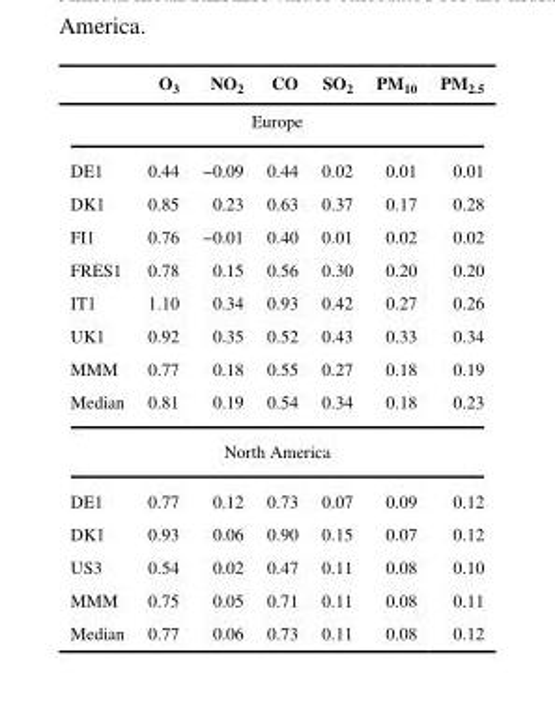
<table><thead><tr><td></td><td>O<sub>3</sub></td><td>NO<sub>2</sub></td><td>CO</td><td>SO<sub>2</sub></td><td>PM<sub>10</sub></td><td>PM<sub>2.5</sub></td></tr></thead><tbody><tr><td colspan="7">Europe</td></tr><tr><td>DE1</td><td>0.44</td><td>−0.09</td><td>0.44</td><td>0.02</td><td>0.01</td><td>0.01</td></tr><tr><td>DK1</td><td>0.85</td><td>0.23</td><td>0.63</td><td>0.37</td><td>0.17</td><td>0.28</td></tr><tr><td>FI1</td><td>0.76</td><td>−0.01</td><td>0.40</td><td>0.01</td><td>0.02</td><td>0.02</td></tr><tr><td>FRES1</td><td>0.78</td><td>0.15</td><td>0.56</td><td>0.30</td><td>0.20</td><td>0.20</td></tr><tr><td>IT1</td><td>1.10</td><td>0.34</td><td>0.93</td><td>0.42</td><td>0.27</td><td>0.26</td></tr><tr><td>UK1</td><td>0.92</td><td>0.35</td><td>0.52</td><td>0.43</td><td>0.33</td><td>0.34</td></tr><tr><td>MMM</td><td>0.77</td><td>0.18</td><td>0.55</td><td>0.27</td><td>0.18</td><td>0.19</td></tr><tr><td>Median</td><td>0.81</td><td>0.19</td><td>0.54</td><td>0.34</td><td>0.18</td><td>0.23</td></tr><tr><td colspan="7">North America</td></tr><tr><td>DE1</td><td>0.77</td><td>0.12</td><td>0.73</td><td>0.07</td><td>0.09</td><td>0.12</td></tr><tr><td>DK1</td><td>0.93</td><td>0.06</td><td>0.90</td><td>0.15</td><td>0.07</td><td>0.12</td></tr><tr><td>US3</td><td>0.54</td><td>0.02</td><td>0.47</td><td>0.11</td><td>0.08</td><td>0.10</td></tr><tr><td>MMM</td><td>0.75</td><td>0.05</td><td>0.71</td><td>0.11</td><td>0.08</td><td>0.11</td></tr><tr><td>Median</td><td>0.77</td><td>0.06</td><td>0.73</td><td>0.11</td><td>0.08</td><td>0.12</td></tr></tbody></table>